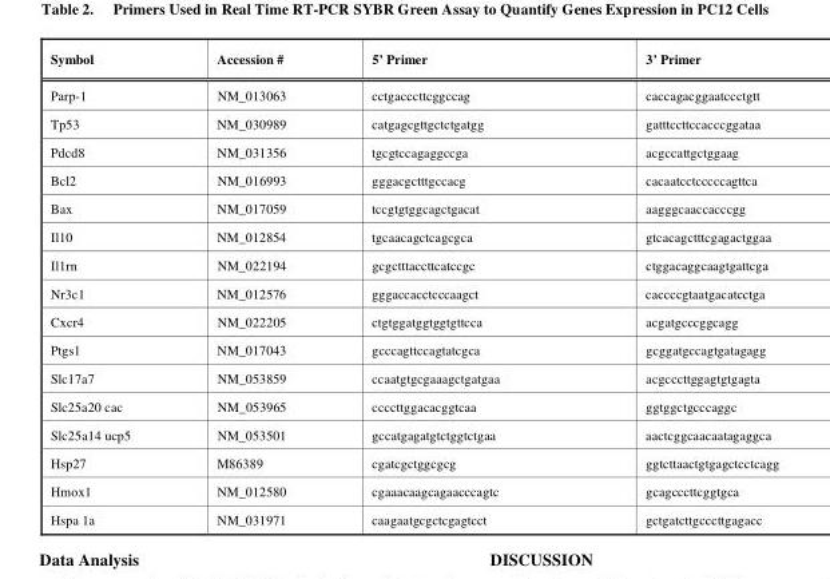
<table><thead><tr><td>Symbol</td><td>Accession #</td><td>5’ Primer</td><td>3’ Primer</td></tr></thead><tbody><tr><td>Parp-1</td><td>NM_013063</td><td>cctgacccttcggccag</td><td>caccagacggaatccctgtt</td></tr><tr><td>Tp53</td><td>NM_030989</td><td>catgagcgttgctctgatgg</td><td>gatttccttccacccggataa</td></tr><tr><td>Pdcd8</td><td>NM_031356</td><td>tgcgtccagaggccga</td><td>acgccattgctggaag</td></tr><tr><td>Bcl2</td><td>NM_016993</td><td>gggacgctttgccacg</td><td>cacaatcctcccccagttca</td></tr><tr><td>Bax</td><td>NM_017059</td><td>tccgtgtggcagctgacat</td><td>aagggcaaccacccgg</td></tr><tr><td>Il10</td><td>NM_012854</td><td>tgcaacagctcagcgca</td><td>gtcacagctttcgagactggaa</td></tr><tr><td>Il1rn</td><td>NM_022194</td><td>gcgctttaccttcatccgc</td><td>ctggacaggcaagtgattcga</td></tr><tr><td>Nr3c1</td><td>NM_012576</td><td>gggaccacctcccaagct</td><td>caccccgtaatgacatcctga</td></tr><tr><td>Cxcr4</td><td>NM_022205</td><td>ctgtggatggtggtgttcca</td><td>acgatgcccggcagg</td></tr><tr><td>Ptgs1</td><td>NM_017043</td><td>gcccagttccagtatcgca</td><td>gcggatgccagtgatagagg</td></tr><tr><td>Slc17a7</td><td>NM_053859</td><td>ccaatgtgcgaaagctgatgaa</td><td>acgcccttggagtgtgagta</td></tr><tr><td>Slc25a20 cac</td><td>NM_053965</td><td>ccccttggacacggtcaa</td><td>ggtggctgcccaggc</td></tr><tr><td>Slc25a14 ucp5</td><td>NM_053501</td><td>gccatgagatgtctggtctgaa</td><td>aactcggcaacaatagaggca</td></tr><tr><td>Hsp27</td><td>M86389</td><td>cgatcgctggcgcg</td><td>ggtcttaactgtgagctcctcagg</td></tr><tr><td>Hmox1</td><td>NM_012580</td><td>cgaaacaagcagaacccagtc</td><td>gcagcccttcggtgca</td></tr><tr><td>Hspa 1a</td><td>NM_031971</td><td>caagaatgcgctcgagtcct</td><td>gctgatcttgcccttgagacc</td></tr></tbody></table>